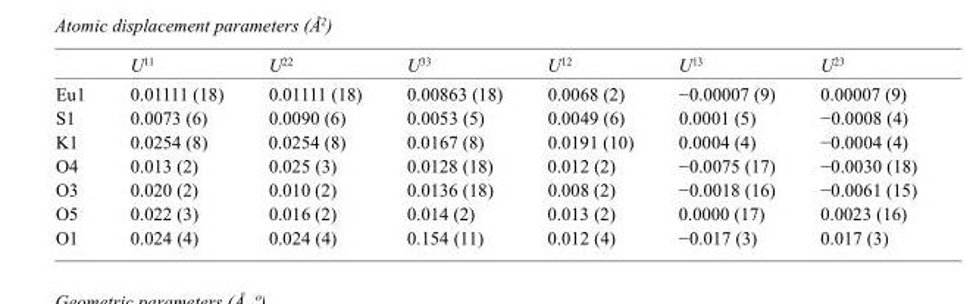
<table><thead><tr><td></td><td>U<sup>11</sup></td><td>U<sup>22</sup></td><td>U<sup>33</sup></td><td>U<sup>12</sup></td><td>U<sup>13</sup></td><td>U<sup>23</sup></td></tr></thead><tbody><tr><td>Eu1</td><td>0.01111 (18)</td><td>0.01111 (18)</td><td>0.00863 (18)</td><td>0.0068 (2)</td><td>−0.00007 (9)</td><td>0.00007 (9)</td></tr><tr><td>S1</td><td>0.0073 (6)</td><td>0.0090 (6)</td><td>0.0053 (5)</td><td>0.0049 (6)</td><td>0.0001 (5)</td><td>−0.0008 (4)</td></tr><tr><td>K1</td><td>0.0254 (8)</td><td>0.0254 (8)</td><td>0.0167 (8)</td><td>0.0191 (10)</td><td>0.0004 (4)</td><td>−0.0004 (4)</td></tr><tr><td>O4</td><td>0.013 (2)</td><td>0.025 (3)</td><td>0.0128 (18)</td><td>0.012 (2)</td><td>−0.0075 (17)</td><td>−0.0030 (18)</td></tr><tr><td>O3</td><td>0.020 (2)</td><td>0.010 (2)</td><td>0.0136 (18)</td><td>0.008 (2)</td><td>−0.0018 (16)</td><td>−0.0061 (15)</td></tr><tr><td>O5</td><td>0.022 (3)</td><td>0.016 (2)</td><td>0.014 (2)</td><td>0.013 (2)</td><td>0.0000 (17)</td><td>0.0023 (16)</td></tr><tr><td>O1</td><td>0.024 (4)</td><td>0.024 (4)</td><td>0.154 (11)</td><td>0.012 (4)</td><td>−0.017 (3)</td><td>0.017 (3)</td></tr></tbody></table>